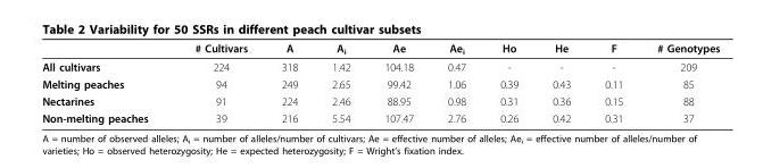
<table><thead><tr><td></td><td># Cultivars</td><td>A</td><td>A<sub>i</sub></td><td>Ae</td><td>Ae<sub>i</sub></td><td>Ho</td><td>He</td><td>F</td><td># Genotypes</td></tr></thead><tbody><tr><td>All cultivars</td><td>224</td><td>318</td><td>1.42</td><td>104.18</td><td>0.47</td><td>-</td><td>-</td><td>-</td><td>209</td></tr><tr><td>Melting peaches</td><td>94</td><td>249</td><td>2.65</td><td>99.42</td><td>1.06</td><td>0.39</td><td>0.43</td><td>0.11</td><td>85</td></tr><tr><td>Nectarines</td><td>91</td><td>224</td><td>2.46</td><td>88.95</td><td>0.98</td><td>0.31</td><td>0.36</td><td>0.15</td><td>88</td></tr><tr><td>Non-melting peaches</td><td>39</td><td>216</td><td>5.54</td><td>107.47</td><td>2.76</td><td>0.26</td><td>0.42</td><td>0.31</td><td>37</td></tr></tbody></table>